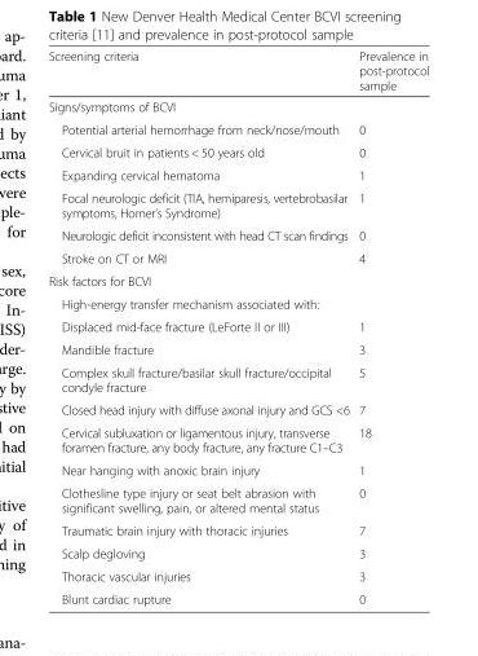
<table><thead><tr><td>Screening criteria</td><td>Prevalence in post-protocol sample</td></tr></thead><tbody><tr><td colspan="2">Signs/symptoms of BCVI</td></tr><tr><td>Potential arterial hemorrhage from neck/nose/mouth</td><td>0</td></tr><tr><td>Cervical bruit in patients &lt; 50 years old</td><td>0</td></tr><tr><td>Expanding cervical hematoma</td><td>1</td></tr><tr><td>Focal neurologic deficit (TIA, hemiparesis, vertebrobasilar symptoms, Horner’s Syndrome)</td><td>1</td></tr><tr><td>Neurologic deficit inconsistent with head CT scan findings</td><td>0</td></tr><tr><td>Stroke on CT or MRI</td><td>4</td></tr><tr><td colspan="2">Risk factors for BCVI</td></tr><tr><td colspan="2">High-energy transfer mechanism associated with:</td></tr><tr><td>Displaced mid-face fracture (LeForte II or III)</td><td>1</td></tr><tr><td>Mandible fracture</td><td>3</td></tr><tr><td>Complex skull fracture/basilar skull fracture/occipital condyle fracture</td><td>5</td></tr><tr><td>Closed head injury with diffuse axonal injury and GCS &lt;6</td><td>7</td></tr><tr><td>Cervical subluxation or ligamentous injury, transverse foramen fracture, any body fracture, any fracture C1–C3</td><td>18</td></tr><tr><td>Near hanging with anoxic brain injury</td><td>1</td></tr><tr><td>Clothesline type injury or seat belt abrasion with significant swelling, pain, or altered mental status</td><td>0</td></tr><tr><td>Traumatic brain injury with thoracic injuries</td><td>7</td></tr><tr><td>Scalp degloving</td><td>3</td></tr><tr><td>Thoracic vascular injuries</td><td>3</td></tr><tr><td>Blunt cardiac rupture</td><td>0</td></tr></tbody></table>